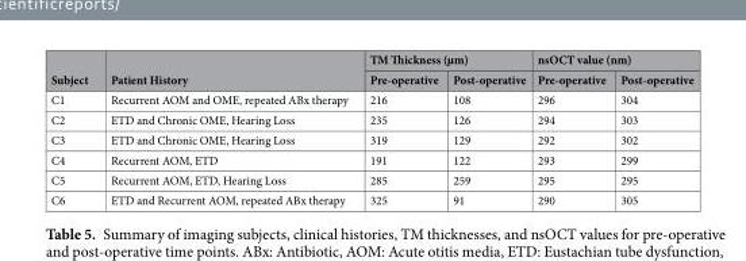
<table><thead><tr><td rowspan="2">Subject</td><td rowspan="2">Patient History</td><td colspan="2">TM Thickness (µm)</td><td colspan="2">nsOCT value (nm)</td></tr><tr><td>Pre-operative</td><td>Post-operative</td><td>Pre-operative</td><td>Post-operative</td></tr></thead><tbody><tr><td>C1</td><td>Recurrent AOM and OME, repeated ABx therapy</td><td>216</td><td>108</td><td>296</td><td>304</td></tr><tr><td>C2</td><td>ETD and Chronic OME, Hearing Loss</td><td>235</td><td>126</td><td>294</td><td>303</td></tr><tr><td>C3</td><td>ETD and Chronic OME, Hearing Loss</td><td>319</td><td>129</td><td>292</td><td>302</td></tr><tr><td>C4</td><td>Recurrent AOM, ETD</td><td>191</td><td>122</td><td>293</td><td>299</td></tr><tr><td>C5</td><td>Recurrent AOM, ETD, Hearing Loss</td><td>285</td><td>259</td><td>295</td><td>295</td></tr><tr><td>C6</td><td>ETD and Recurrent AOM, repeated ABx therapy</td><td>325</td><td>91</td><td>290</td><td>305</td></tr></tbody></table>